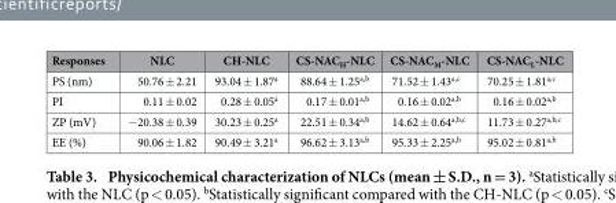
<table><thead><tr><td>Responses</td><td>NLC</td><td>CH-NLC</td><td>CS-NAC<sub>H</sub>-NLC</td><td>CS-NAC<sub>M</sub>-NLC</td><td>CS-NAC<sub>L</sub>-NLC</td></tr></thead><tbody><tr><td>PS (nm)</td><td>50.76 ± 2.21</td><td>93.04 ± 1.87<sup>a</sup></td><td>88.64 ± 1.25<sup>a</sup>,<sup>b</sup></td><td>71.52 ± 1.43<sup>a</sup>,<sup>c</sup></td><td>70.25 ± 1.81<sup>a</sup>,<sup>c</sup></td></tr><tr><td>PI</td><td>0.11 ± 0.02</td><td>0.28 ± 0.05<sup>a</sup></td><td>0.17 ± 0.01<sup>a</sup>,<sup>b</sup></td><td>0.16 ± 0.02<sup>a</sup>,<sup>b</sup></td><td>0.16 ± 0.02<sup>a</sup>,<sup>b</sup></td></tr><tr><td>ZP (mV)</td><td>− 20.38 ± 0.39</td><td>30.23 ± 0.25<sup>a</sup></td><td>22.51 ± 0.34<sup>a</sup>,<sup>b</sup></td><td>14.62 ± 0.64<sup>a</sup>,<sup>b</sup>,<sup>c</sup></td><td>11.73 ± 0.27<sup>a</sup>,<sup>b</sup>,<sup>c</sup></td></tr><tr><td>EE (%)</td><td>90.06 ± 1.82</td><td>90.49 ± 3.21<sup>a</sup></td><td>96.62 ± 3.13<sup>a</sup>,<sup>b</sup></td><td>95.33 ± 2.25<sup>a</sup>,<sup>b</sup></td><td>95.02 ± 0.81<sup>a</sup>,<sup>b</sup></td></tr></tbody></table>